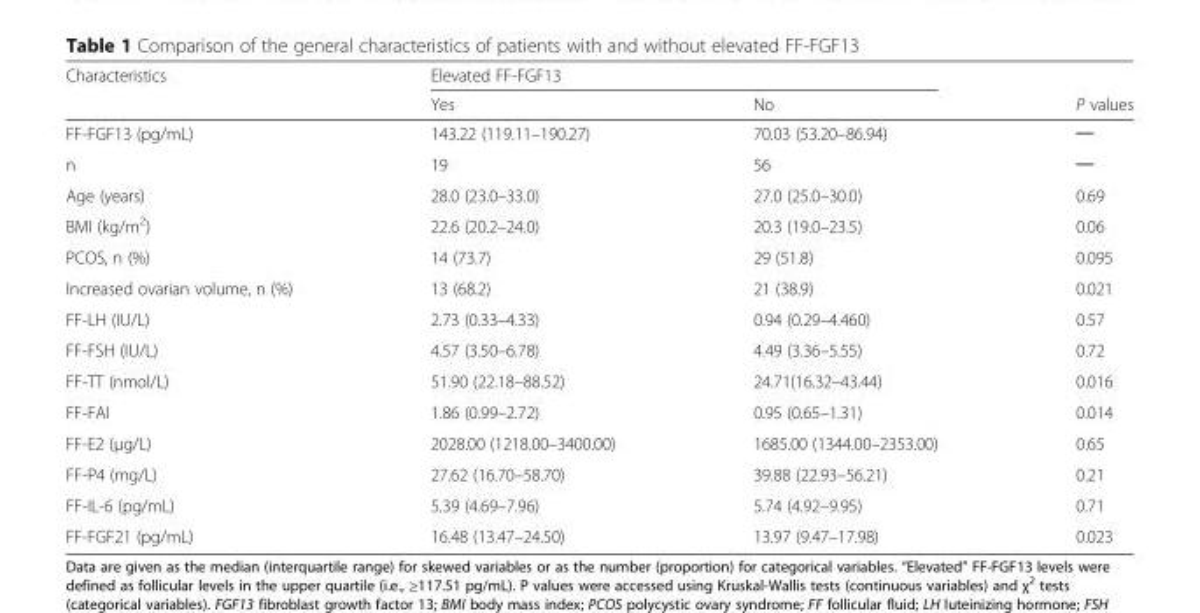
<table><thead><tr><td rowspan="2">Characteristics</td><td colspan="2">Elevated FF-FGF13</td><td rowspan="2">P values</td></tr><tr><td>Yes</td><td>No</td></tr></thead><tbody><tr><td>FF-FGF13 (pg/mL)</td><td>143.22 (119.11–190.27)</td><td>70.03 (53.20–86.94)</td><td>─</td></tr><tr><td>n</td><td>19</td><td>56</td><td>─</td></tr><tr><td>Age (years)</td><td>28.0 (23.0–33.0)</td><td>27.0 (25.0–30.0)</td><td>0.69</td></tr><tr><td>BMI (kg/m<sup>2</sup>)</td><td>22.6 (20.2–24.0)</td><td>20.3 (19.0–23.5)</td><td>0.06</td></tr><tr><td>PCOS, n (%)</td><td>14 (73.7)</td><td>29 (51.8)</td><td>0.095</td></tr><tr><td>Increased ovarian volume, n (%)</td><td>13 (68.2)</td><td>21 (38.9)</td><td>0.021</td></tr><tr><td>FF-LH (IU/L)</td><td>2.73 (0.33–4.33)</td><td>0.94 (0.29–4.460)</td><td>0.57</td></tr><tr><td>FF-FSH (IU/L)</td><td>4.57 (3.50–6.78)</td><td>4.49 (3.36–5.55)</td><td>0.72</td></tr><tr><td>FF-TT (nmol/L)</td><td>51.90 (22.18–88.52)</td><td>24.71(16.32–43.44)</td><td>0.016</td></tr><tr><td>FF-FAI</td><td>1.86 (0.99–2.72)</td><td>0.95 (0.65–1.31)</td><td>0.014</td></tr><tr><td>FF-E2 (μg/L)</td><td>2028.00 (1218.00–3400.00)</td><td>1685.00 (1344.00–2353.00)</td><td>0.65</td></tr><tr><td>FF-P4 (mg/L)</td><td>27.62 (16.70–58.70)</td><td>39.88 (22.93–56.21)</td><td>0.21</td></tr><tr><td>FF-IL-6 (pg/mL)</td><td>5.39 (4.69–7.96)</td><td>5.74 (4.92–9.95)</td><td>0.71</td></tr><tr><td>FF-FGF21 (pg/mL)</td><td>16.48 (13.47–24.50)</td><td>13.97 (9.47–17.98)</td><td>0.023</td></tr></tbody></table>